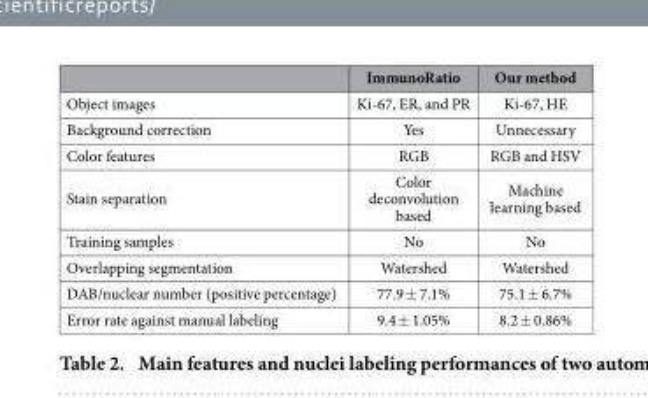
<table><thead><tr><td></td><td>ImmunoRatio</td><td>Our method</td></tr></thead><tbody><tr><td>Object images</td><td>Ki-67, ER, and PR</td><td>Ki-67, HE</td></tr><tr><td>Background correction</td><td>Yes</td><td>Unnecessary</td></tr><tr><td>Color features</td><td>RGB</td><td>RGB and HSV</td></tr><tr><td>Stain separation</td><td>Color deconvolution based</td><td>Machine learning based</td></tr><tr><td>Training samples</td><td>No</td><td>No</td></tr><tr><td>Overlapping segmentation</td><td>Watershed</td><td>Watershed</td></tr><tr><td>DAB/nuclear number (positive percentage)</td><td>77.9 ± 7.1%</td><td>75.1 ± 6.7%</td></tr><tr><td>Error rate against manual labeling</td><td>9.4 ± 1.05%</td><td>8.2 ± 0.86%</td></tr></tbody></table>